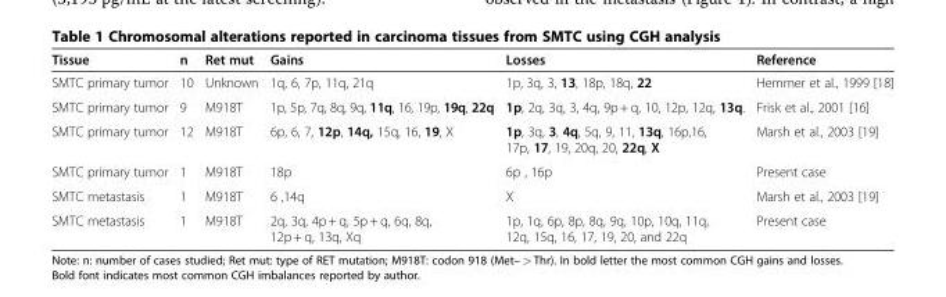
<table><thead><tr><td>Tissue</td><td>n</td><td>Ret mut</td><td>Gains</td><td>Losses</td><td>Reference</td></tr></thead><tbody><tr><td>SMTC primary tumor</td><td>10</td><td>Unknown</td><td>1q, 6, 7p, 11q, 21q</td><td>1p, 3q, 3, 13, 18p, 18q, 22</td><td>Hemmer et al., 1999 [18]</td></tr><tr><td>SMTC primary tumor</td><td>9</td><td>M918T</td><td>1p, 5p, 7q, 8q, 9q, 11q, 16, 19p, 19q, 22q</td><td>1p, 2q, 3q, 3, 4q, 9p + q, 10, 12p, 12q, 13q.</td><td>Frisk et al., 2001 [16]</td></tr><tr><td>SMTC primary tumor</td><td>12</td><td>M918T</td><td>6p, 6, 7, 12p, 14q, 15q, 16, 19, X</td><td>1p, 3q, 3, 4q, 5q, 9, 11, 13q, 16p,16, 17p, 17, 19, 20q, 20, 22q, X</td><td>Marsh et al., 2003 [19]</td></tr><tr><td>SMTC primary tumor</td><td>1</td><td>M918T</td><td>18p</td><td>6p , 16p</td><td>Present case</td></tr><tr><td>SMTC metastasis</td><td>1</td><td>M918T</td><td>6 ,14q</td><td>X</td><td>Marsh et al., 2003 [19]</td></tr><tr><td>SMTC metastasis</td><td>1</td><td>M918T</td><td>2q, 3q, 4p + q, 5p + q, 6q, 8q, 12p + q, 13q, Xq</td><td>1p, 1q, 6p, 8p, 8q, 9q, 10p, 10q, 11q, 12q, 15q, 16, 17, 19, 20, and 22q</td><td>Present case</td></tr></tbody></table>